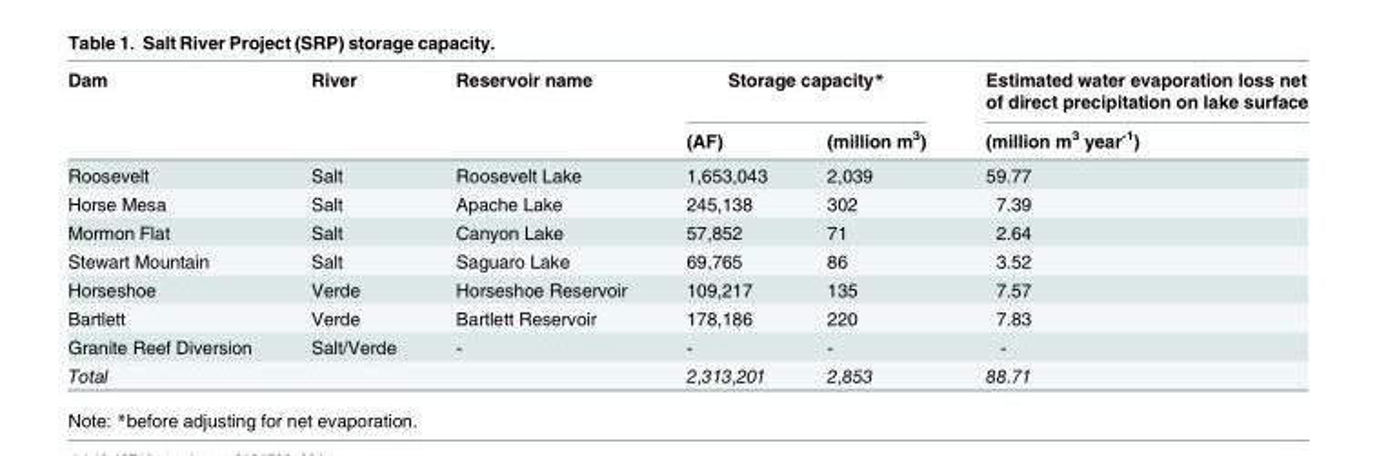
<table><thead><tr><td rowspan="2">Dam</td><td rowspan="2">River</td><td rowspan="2">Reservoir name</td><td colspan="2">Storage capacity*</td><td rowspan="2">Estimated water evaporation loss net of direct precipitation on lake surface (million m<sup>3</sup> year<sup>-1</sup>)</td></tr><tr><td>(AF)</td><td>(million m<sup>3</sup>)</td></tr></thead><tbody><tr><td>Roosevelt</td><td>Salt</td><td>Roosevelt Lake</td><td>1,653,043</td><td>2,039</td><td>59.77</td></tr><tr><td>Horse Mesa</td><td>Salt</td><td>Apache Lake</td><td>245,138</td><td>302</td><td>7.39</td></tr><tr><td>Mormon Flat</td><td>Salt</td><td>Canyon Lake</td><td>57,852</td><td>71</td><td>2.64</td></tr><tr><td>Stewart Mountain</td><td>Salt</td><td>Saguaro Lake</td><td>69,765</td><td>86</td><td>3.52</td></tr><tr><td>Horseshoe</td><td>Verde</td><td>Horseshoe Reservoir</td><td>109,217</td><td>135</td><td>7.57</td></tr><tr><td>Bartlett</td><td>Verde</td><td>Bartlett Reservoir</td><td>178,186</td><td>220</td><td>7.83</td></tr><tr><td>Granite Reef Diversion</td><td>Salt/Verde</td><td>-</td><td>-</td><td>-</td><td>-</td></tr><tr><td>Total</td><td></td><td></td><td>2,313,201</td><td>2,853</td><td>88.71</td></tr></tbody></table>